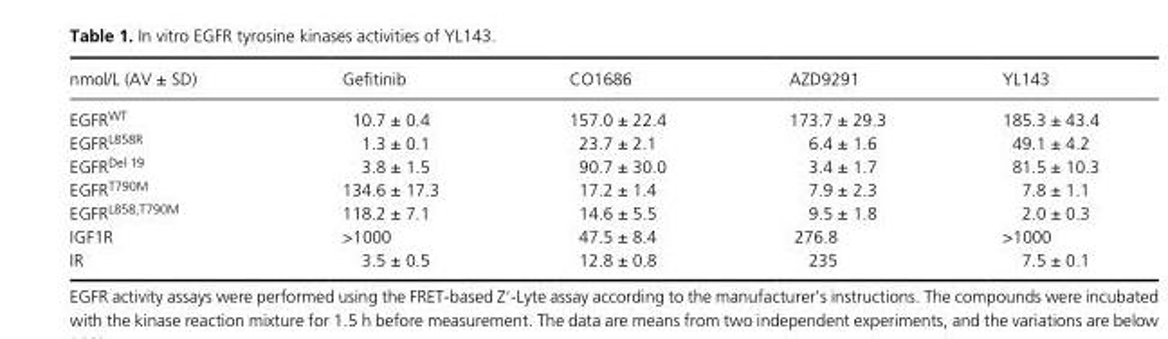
<table><thead><tr><td>nmol/L (AV ± SD)</td><td>Gefitinib</td><td>CO1686</td><td>AZD9291</td><td>YL143</td></tr></thead><tbody><tr><td>EGFR<sup>WT</sup></td><td>10.7 ± 0.4</td><td>157.0 ± 22.4</td><td>173.7 ± 29.3</td><td>185.3 ± 43.4</td></tr><tr><td>EGFR<sup>L858R</sup></td><td>1.3 ± 0.1</td><td>23.7 ± 2.1</td><td>6.4 ± 1.6</td><td>49.1 ± 4.2</td></tr><tr><td>EGFR<sup>Del 19</sup></td><td>3.8 ± 1.5</td><td>90.7 ± 30.0</td><td>3.4 ± 1.7</td><td>81.5 ± 10.3</td></tr><tr><td>EGFR<sup>T790M</sup></td><td>134.6 ± 17.3</td><td>17.2 ± 1.4</td><td>7.9 ± 2.3</td><td>7.8 ± 1.1</td></tr><tr><td>EGFR<sup>L858,T790M</sup></td><td>118.2 ± 7.1</td><td>14.6 ± 5.5</td><td>9.5 ± 1.8</td><td>2.0 ± 0.3</td></tr><tr><td>IGF1R</td><td>&gt;1000</td><td>47.5 ± 8.4</td><td>276.8</td><td>&gt;1000</td></tr><tr><td>IR</td><td>3.5 ± 0.5</td><td>12.8 ± 0.8</td><td>235</td><td>7.5 ± 0.1</td></tr></tbody></table>